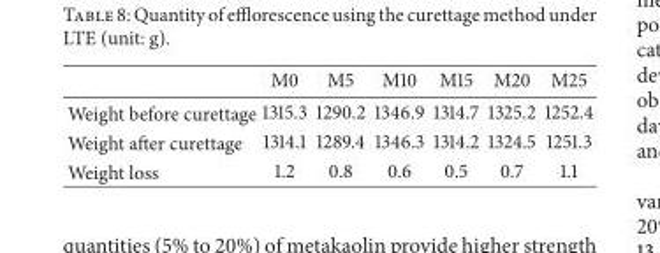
<table><thead><tr><td></td><td>M0</td><td>M5</td><td>M10</td><td>M15</td><td>M20</td><td>M25</td></tr></thead><tbody><tr><td>Weight before curettage</td><td>1315.3</td><td>1290.2</td><td>1346.9</td><td>1314.7</td><td>1325.2</td><td>1252.4</td></tr><tr><td>Weight after curettage</td><td>1314.1</td><td>1289.4</td><td>1346.3</td><td>1314.2</td><td>1324.5</td><td>1251.3</td></tr><tr><td>Weight loss</td><td>1.2</td><td>0.8</td><td>0.6</td><td>0.5</td><td>0.7</td><td>1.1</td></tr></tbody></table>